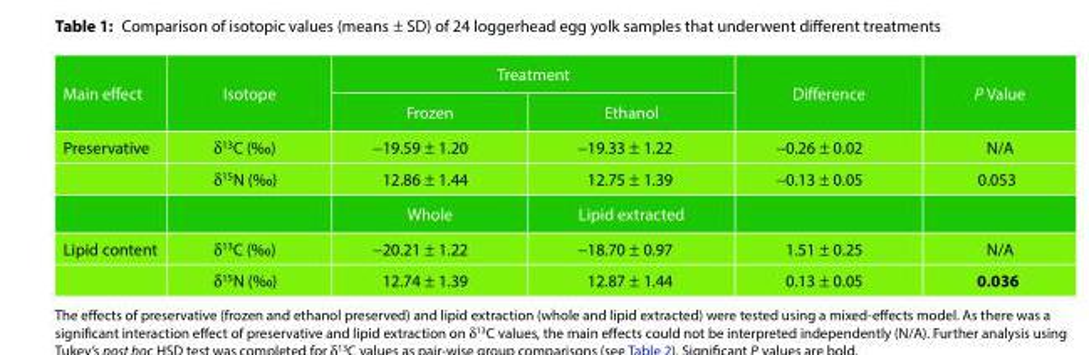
<table><thead><tr><td rowspan="2">Main effect</td><td rowspan="2">Isotope</td><td colspan="2">Treatment</td><td rowspan="2">Difference</td><td rowspan="2">P Value</td></tr><tr><td>Frozen</td><td>Ethanol</td></tr></thead><tbody><tr><td rowspan="3">Preservative</td><td>δ<sup>13</sup>C (‰)</td><td>−19.59 ± 1.20</td><td>−19.33 ± 1.22</td><td>−0.26 ± 0.02</td><td>N/A</td></tr><tr><td>δ<sup>15</sup>N (‰)</td><td>12.86 ± 1.44</td><td>12.75 ± 1.39</td><td>−0.13 ± 0.05</td><td>0.053</td></tr><tr><td></td><td>Whole</td><td>Lipid extracted</td><td></td><td></td></tr><tr><td rowspan="2">Lipid content</td><td>δ<sup>13</sup>C (‰)</td><td>−20.21 ± 1.22</td><td>−18.70 ± 0.97</td><td>1.51 ± 0.25</td><td>N/A</td></tr><tr><td>δ<sup>15</sup>N (‰)</td><td>12.74 ± 1.39</td><td>12.87 ± 1.44</td><td>0.13 ± 0.05</td><td>0.036</td></tr></tbody></table>